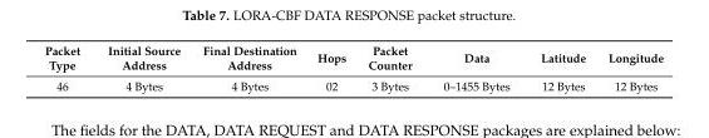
<table><thead><tr><td>Packet Type</td><td>Initial Source Address</td><td>Final Destination Address</td><td>Hops</td><td>Packet Counter</td><td>Data</td><td>Latitude</td><td>Longitude</td></tr></thead><tbody><tr><td>46</td><td>4 Bytes</td><td>4 Bytes</td><td>02</td><td>3 Bytes</td><td>0–1455 Bytes</td><td>12 Bytes</td><td>12 Bytes</td></tr></tbody></table>